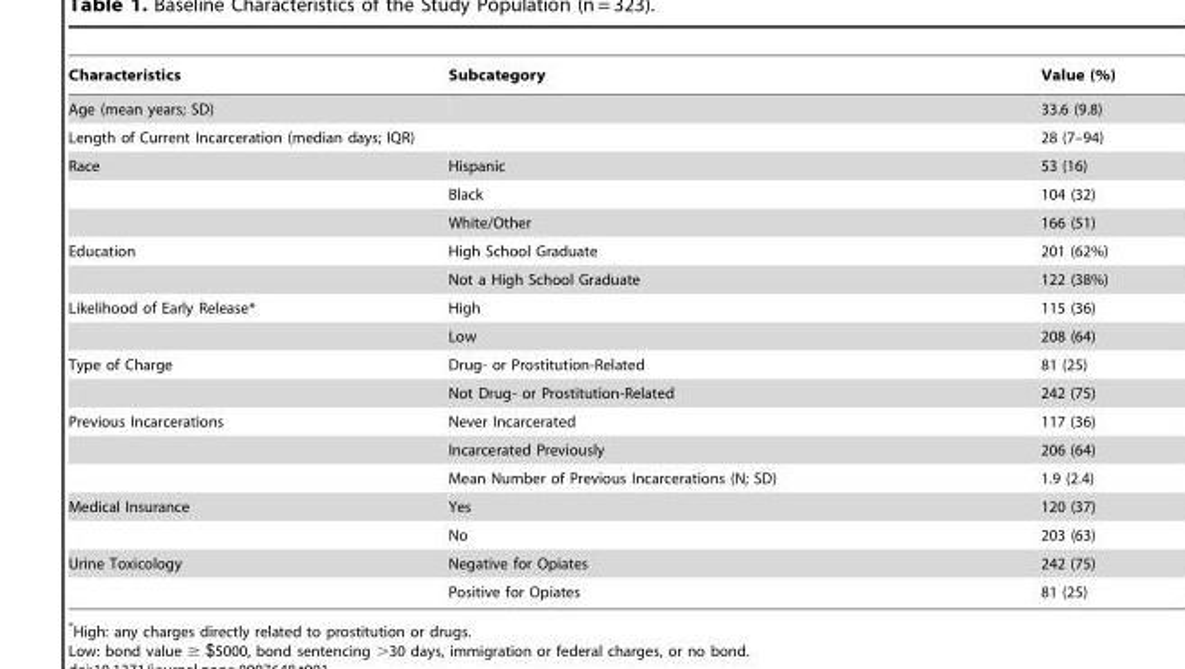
<table><thead><tr><td>Characteristics</td><td>Subcategory</td><td>Value (%)</td></tr></thead><tbody><tr><td>Age (mean years; SD)</td><td></td><td>33.6 (9.8)</td></tr><tr><td>Length of Current Incarceration (median days; IQR)</td><td></td><td>28 (7–94)</td></tr><tr><td rowspan="3">Race</td><td>Hispanic</td><td>53 (16)</td></tr><tr><td>Black</td><td>104 (32)</td></tr><tr><td>White/Other</td><td>166 (51)</td></tr><tr><td rowspan="2">Education</td><td>High School Graduate</td><td>201 (62%)</td></tr><tr><td>Not a High School Graduate</td><td>122 (38%)</td></tr><tr><td rowspan="2">Likelihood of Early Release*</td><td>High</td><td>115 (36)</td></tr><tr><td>Low</td><td>208 (64)</td></tr><tr><td rowspan="2">Type of Charge</td><td>Drug- or Prostitution-Related</td><td>81 (25)</td></tr><tr><td>Not Drug- or Prostitution-Related</td><td>242 (75)</td></tr><tr><td rowspan="3">Previous Incarcerations</td><td>Never Incarcerated</td><td>117 (36)</td></tr><tr><td>Incarcerated Previously</td><td>206 (64)</td></tr><tr><td>Mean Number of Previous Incarcerations (N; SD)</td><td>1.9 (2.4)</td></tr><tr><td rowspan="2">Medical Insurance</td><td>Yes</td><td>120 (37)</td></tr><tr><td>No</td><td>203 (63)</td></tr><tr><td rowspan="2">Urine Toxicology</td><td>Negative for Opiates</td><td>242 (75)</td></tr><tr><td>Positive for Opiates</td><td>81 (25)</td></tr></tbody></table>